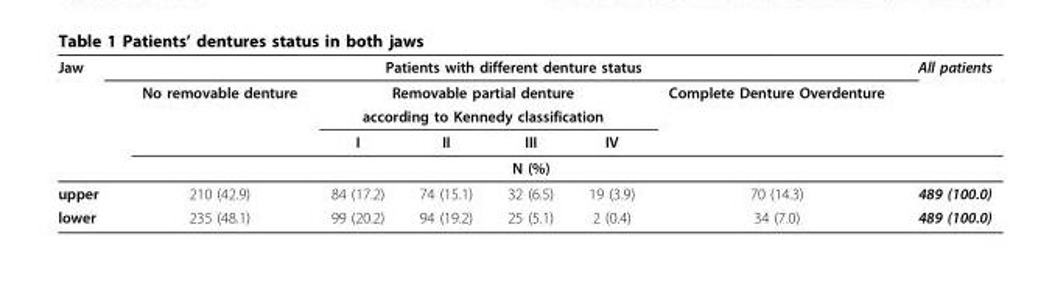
<table><thead><tr><td rowspan="4">Jaw</td><td colspan="6">Patients with different denture status</td><td rowspan="4">All patients</td></tr><tr><td rowspan="3">No removable denture</td><td rowspan="2" colspan="4">Removable partial denture according to Kennedy classification</td><td rowspan="3">Complete Denture Overdenture</td></tr><tr></tr><tr><td>I</td><td>II</td><td>III</td><td>IV</td></tr></thead><tbody><tr><td></td><td></td><td></td><td></td><td>N (%)</td><td></td><td></td><td></td></tr><tr><td>upper</td><td>210 (42.9)</td><td>84 (17.2)</td><td>74 (15.1)</td><td>32 (6.5)</td><td>19 (3.9)</td><td>70 (14.3)</td><td>489 (100.0)</td></tr><tr><td>lower</td><td>235 (48.1)</td><td>99 (20.2)</td><td>94 (19.2)</td><td>25 (5.1)</td><td>2 (0.4)</td><td>34 (7.0)</td><td>489 (100.0)</td></tr></tbody></table>